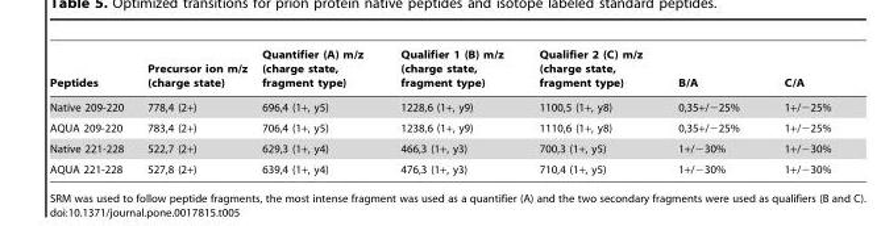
<table><thead><tr><td>Peptides</td><td>Precursor ion m/z (charge state)</td><td>Quantifier (A) m/z (charge state, fragment type)</td><td>Qualifier 1 (B) m/z (charge state, fragment type)</td><td>Qualifier 2 (C) m/z (charge state, fragment type)</td><td>B/A</td><td>C/A</td></tr></thead><tbody><tr><td>Native 209-220</td><td>778,4 (2+)</td><td>696,4 (1+, y5)</td><td>1228,6 (1+, y9)</td><td>1100,5 (1+, y8)</td><td>0,35+/−25%</td><td>1+/−25%</td></tr><tr><td>AQUA 209-220</td><td>783,4 (2+)</td><td>706,4 (1+, y5)</td><td>1238,6 (1+, y9)</td><td>1110,6 (1+, y8)</td><td>0,35+/−25%</td><td>1+/−25%</td></tr><tr><td>Native 221-228</td><td>522,7 (2+)</td><td>629,3 (1+, y4)</td><td>466,3 (1+, y3)</td><td>700,3 (1+, y5)</td><td>1+/−30%</td><td>1+/−30%</td></tr><tr><td>AQUA 221-228</td><td>527,8 (2+)</td><td>639,4 (1+, y4)</td><td>476,3 (1+, y3)</td><td>710,4 (1+, y5)</td><td>1+/−30%</td><td>1+/−30%</td></tr></tbody></table>